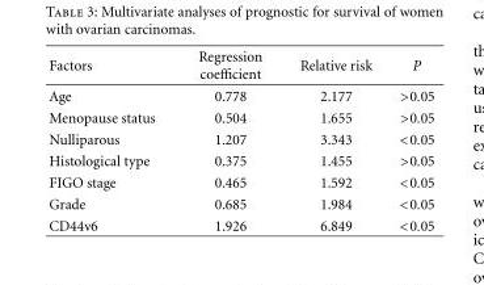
<table><thead><tr><td>Factors</td><td>Regression coefficient</td><td>Relative risk</td><td>P</td></tr></thead><tbody><tr><td>Age</td><td>0.778</td><td>2.177</td><td>&gt;0.05</td></tr><tr><td>Menopause status</td><td>0.504</td><td>1.655</td><td>&gt;0.05</td></tr><tr><td>Nulliparous</td><td>1.207</td><td>3.343</td><td>&lt;0.05</td></tr><tr><td>Histological type</td><td>0.375</td><td>1.455</td><td>&gt;0.05</td></tr><tr><td>FIGO stage</td><td>0.465</td><td>1.592</td><td>&lt;0.05</td></tr><tr><td>Grade</td><td>0.685</td><td>1.984</td><td>&lt;0.05</td></tr><tr><td>CD44v6</td><td>1.926</td><td>6.849</td><td>&lt;0.05</td></tr></tbody></table>